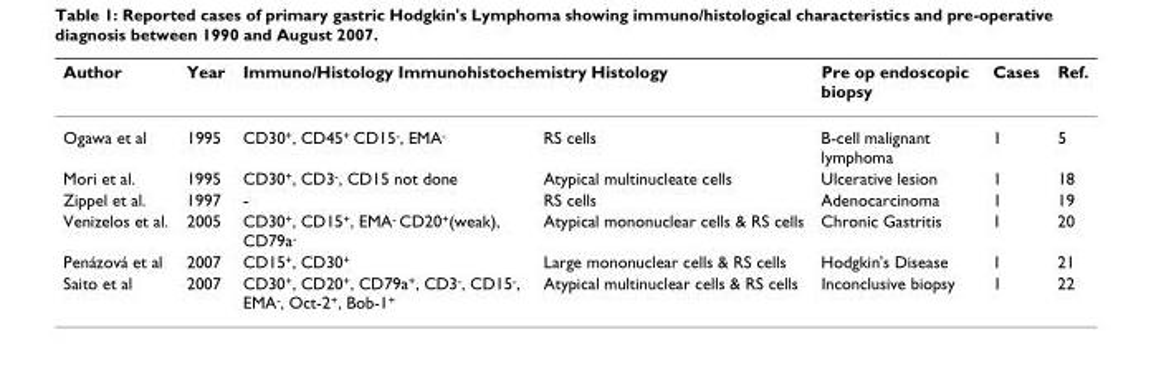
<table><thead><tr><td rowspan="2">Author Ogawa et al</td><td rowspan="2">Year 1995</td><td colspan="2">Immuno/Histology Immunohistochemistry Histology</td><td rowspan="2">Pre op endoscopic biopsy B-cell malignant lymphoma</td><td rowspan="2">Cases 1</td><td rowspan="2">Ref. 5</td></tr><tr><td>CD30<sup>+</sup>, CD45<sup>+</sup> CD15<sup>-</sup>, EMA<sup>-</sup></td><td>RS cells</td></tr></thead><tbody><tr><td>Mori et al.</td><td>1995</td><td>CD30<sup>+</sup>, CD3<sup>-</sup>, CD15 not done</td><td>Atypical multinucleate cells</td><td>Ulcerative lesion</td><td>1</td><td>18</td></tr><tr><td>Zippel et al.</td><td>1997</td><td>-</td><td>RS cells</td><td>Adenocarcinoma</td><td>1</td><td>19</td></tr><tr><td>Venizelos et al.</td><td>2005</td><td>CD30<sup>+</sup>, CD15<sup>+</sup>, EMA<sup>-</sup> CD20<sup>+</sup>(weak), CD79a<sup>-</sup></td><td>Atypical mononuclear cells &amp; RS cells</td><td>Chronic Gastritis</td><td>1</td><td>20</td></tr><tr><td>Penázová et al</td><td>2007</td><td>CD15<sup>+</sup>, CD30<sup>+</sup></td><td>Large mononuclear cells &amp; RS cells</td><td>Hodgkin&#x27;s Disease</td><td>1</td><td>21</td></tr><tr><td>Saito et al</td><td>2007</td><td>CD30<sup>+</sup>, CD20<sup>+</sup>, CD79a<sup>+</sup>, CD3<sup>-</sup>, CD15<sup>-</sup>, EMA<sup>-</sup>, Oct-2<sup>+</sup>, Bob-1<sup>+</sup></td><td>Atypical multinuclear cells &amp; RS cells</td><td>Inconclusive biopsy</td><td>1</td><td>22</td></tr></tbody></table>